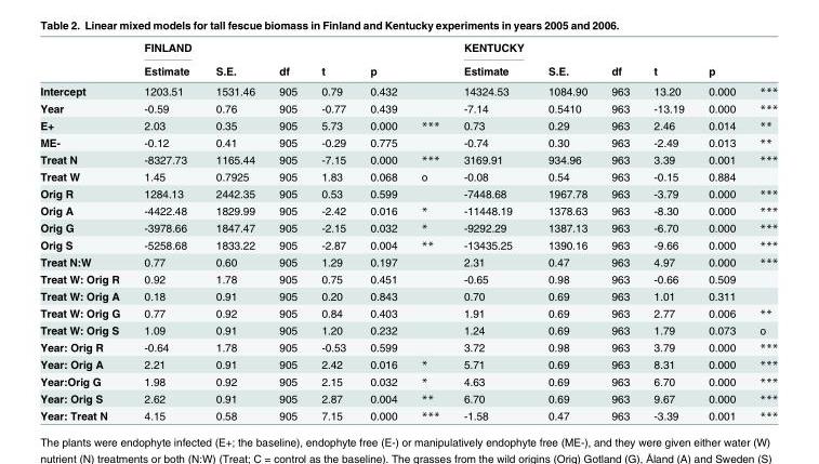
<table><thead><tr><td rowspan="2"></td><td rowspan="2">FINLAND Estimate</td><td rowspan="2">S.E.</td><td rowspan="2">df</td><td rowspan="2">t</td><td rowspan="2">p</td><td rowspan="2"></td><td rowspan="2">KENTUCKY Estimate</td><td rowspan="2">S.E.</td><td rowspan="2">df</td><td rowspan="2">t</td><td rowspan="2">p</td><td rowspan="2"></td></tr><tr></tr></thead><tbody><tr><td>Intercept</td><td>1203.51</td><td>1531.46</td><td>905</td><td>0.79</td><td>0.432</td><td></td><td>14324.53</td><td>1084.90</td><td>963</td><td>13.20</td><td>0.000</td><td>***</td></tr><tr><td>Year</td><td>-0.59</td><td>0.76</td><td>905</td><td>-0.77</td><td>0.439</td><td></td><td>-7.14</td><td>0.5410</td><td>963</td><td>-13.19</td><td>0.000</td><td>***</td></tr><tr><td>E+</td><td>2.03</td><td>0.35</td><td>905</td><td>5.73</td><td>0.000</td><td>***</td><td>0.73</td><td>0.29</td><td>963</td><td>2.46</td><td>0.014</td><td>**</td></tr><tr><td>ME-</td><td>-0.12</td><td>0.41</td><td>905</td><td>-0.29</td><td>0.775</td><td></td><td>-0.74</td><td>0.30</td><td>963</td><td>-2.49</td><td>0.013</td><td>**</td></tr><tr><td>Treat N</td><td>-8327.73</td><td>1165.44</td><td>905</td><td>-7.15</td><td>0.000</td><td>***</td><td>3169.91</td><td>934.96</td><td>963</td><td>3.39</td><td>0.001</td><td>***</td></tr><tr><td>Treat W</td><td>1.45</td><td>0.7925</td><td>905</td><td>1.83</td><td>0.068</td><td>o</td><td>-0.08</td><td>0.54</td><td>963</td><td>-0.15</td><td>0.884</td><td></td></tr><tr><td>Orig R</td><td>1284.13</td><td>2442.35</td><td>905</td><td>0.53</td><td>0.599</td><td></td><td>-7448.68</td><td>1967.78</td><td>963</td><td>-3.79</td><td>0.000</td><td>***</td></tr><tr><td>Orig A</td><td>-4422.48</td><td>1829.99</td><td>905</td><td>-2.42</td><td>0.016</td><td>*</td><td>-11448.19</td><td>1378.63</td><td>963</td><td>-8.30</td><td>0.000</td><td>***</td></tr><tr><td>Orig G</td><td>-3978.66</td><td>1847.47</td><td>905</td><td>-2.15</td><td>0.032</td><td>*</td><td>-9292.29</td><td>1387.13</td><td>963</td><td>-6.70</td><td>0.000</td><td>***</td></tr><tr><td>Orig S</td><td>-5258.68</td><td>1833.22</td><td>905</td><td>-2.87</td><td>0.004</td><td>**</td><td>-13435.25</td><td>1390.16</td><td>963</td><td>-9.66</td><td>0.000</td><td>***</td></tr><tr><td>Treat N:W</td><td>0.77</td><td>0.60</td><td>905</td><td>1.29</td><td>0.197</td><td></td><td>2.31</td><td>0.47</td><td>963</td><td>4.97</td><td>0.000</td><td>***</td></tr><tr><td>Treat W: Orig R</td><td>0.92</td><td>1.78</td><td>905</td><td>0.75</td><td>0.451</td><td></td><td>-0.65</td><td>0.98</td><td>963</td><td>-0.66</td><td>0.509</td><td></td></tr><tr><td>Treat W: Orig A</td><td>0.18</td><td>0.91</td><td>905</td><td>0.20</td><td>0.843</td><td></td><td>0.70</td><td>0.69</td><td>963</td><td>1.01</td><td>0.311</td><td></td></tr><tr><td>Treat W: Orig G</td><td>0.77</td><td>0.92</td><td>905</td><td>0.84</td><td>0.403</td><td></td><td>1.91</td><td>0.69</td><td>963</td><td>2.77</td><td>0.006</td><td>**</td></tr><tr><td>Treat W: Orig S</td><td>1.09</td><td>0.91</td><td>905</td><td>1.20</td><td>0.232</td><td></td><td>1.24</td><td>0.69</td><td>963</td><td>1.79</td><td>0.073</td><td>o</td></tr><tr><td>Year: Orig R</td><td>-0.64</td><td>1.78</td><td>905</td><td>-0.53</td><td>0.599</td><td></td><td>3.72</td><td>0.98</td><td>963</td><td>3.79</td><td>0.000</td><td>***</td></tr><tr><td>Year: Orig A</td><td>2.21</td><td>0.91</td><td>905</td><td>2.42</td><td>0.016</td><td>*</td><td>5.71</td><td>0.69</td><td>963</td><td>8.31</td><td>0.000</td><td>***</td></tr><tr><td>Year:Orig G</td><td>1.98</td><td>0.92</td><td>905</td><td>2.15</td><td>0.032</td><td>*</td><td>4.63</td><td>0.69</td><td>963</td><td>6.70</td><td>0.000</td><td>***</td></tr><tr><td>Year: Orig S</td><td>2.62</td><td>0.91</td><td>905</td><td>2.87</td><td>0.004</td><td>**</td><td>6.70</td><td>0.69</td><td>963</td><td>9.67</td><td>0.000</td><td>***</td></tr><tr><td>Year: Treat N</td><td>4.15</td><td>0.58</td><td>905</td><td>7.15</td><td>0.000</td><td>***</td><td>-1.58</td><td>0.47</td><td>963</td><td>-3.39</td><td>0.001</td><td>***</td></tr></tbody></table>